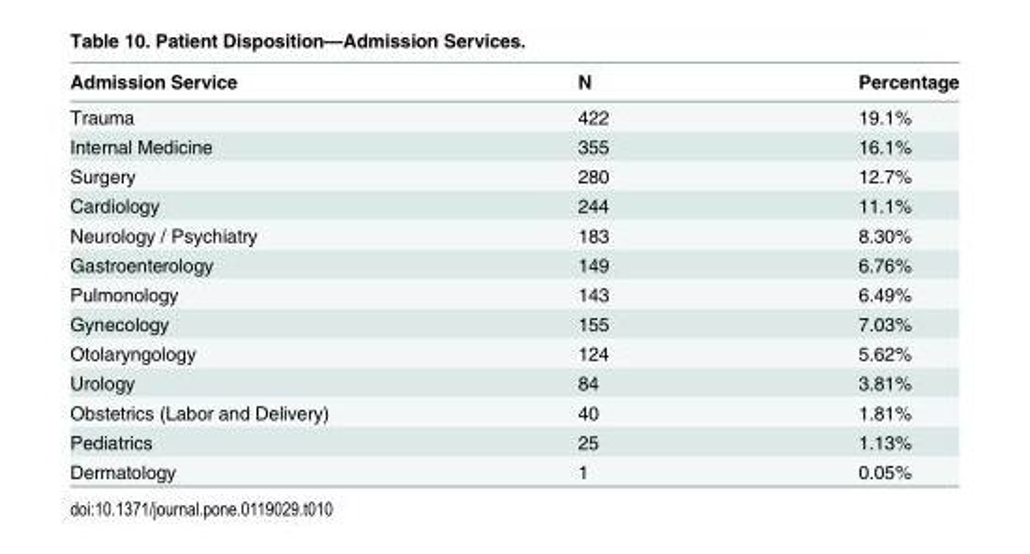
<table><thead><tr><td>Admission Service</td><td>N</td><td>Percentage</td></tr></thead><tbody><tr><td>Trauma</td><td>422</td><td>19.1%</td></tr><tr><td>Internal Medicine</td><td>355</td><td>16.1%</td></tr><tr><td>Surgery</td><td>280</td><td>12.7%</td></tr><tr><td>Cardiology</td><td>244</td><td>11.1%</td></tr><tr><td>Neurology / Psychiatry</td><td>183</td><td>8.30%</td></tr><tr><td>Gastroenterology</td><td>149</td><td>6.76%</td></tr><tr><td>Pulmonology</td><td>143</td><td>6.49%</td></tr><tr><td>Gynecology</td><td>155</td><td>7.03%</td></tr><tr><td>Otolaryngology</td><td>124</td><td>5.62%</td></tr><tr><td>Urology</td><td>84</td><td>3.81%</td></tr><tr><td>Obstetrics (Labor and Delivery)</td><td>40</td><td>1.81%</td></tr><tr><td>Pediatrics</td><td>25</td><td>1.13%</td></tr><tr><td>Dermatology</td><td>1</td><td>0.05%</td></tr></tbody></table>